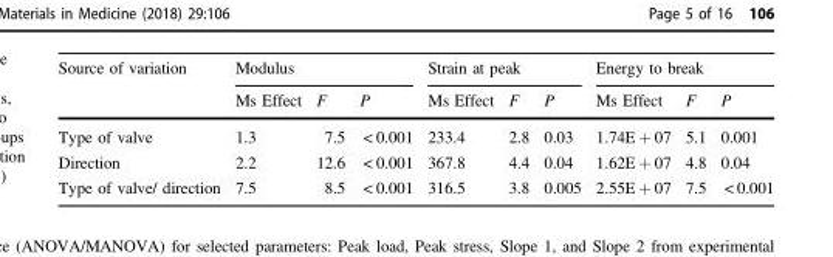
<table><thead><tr><td rowspan="2">Source of variation</td><td colspan="3">Modulus</td><td colspan="3">Strain at peak</td><td colspan="3">Energy to break</td></tr><tr><td>Ms Effect</td><td>F</td><td>P</td><td>Ms Effect</td><td>F</td><td>P</td><td>Ms Effect</td><td>F</td><td>P</td></tr></thead><tbody><tr><td>Type of valve</td><td>1.3</td><td>7.5</td><td>&lt; 0.001</td><td>233.4</td><td>2.8</td><td>0.03</td><td>1.74E + 07</td><td>5.1</td><td>0.001</td></tr><tr><td>Direction</td><td>2.2</td><td>12.6</td><td>&lt; 0.001</td><td>367.8</td><td>4.4</td><td>0.04</td><td>1.62E + 07</td><td>4.8</td><td>0.04</td></tr><tr><td>Type of valve/ direction</td><td>7.5</td><td>8.5</td><td>&lt; 0.001</td><td>316.5</td><td>3.8</td><td>0.005</td><td>2.55E + 07</td><td>7.5</td><td>&lt; 0.001</td></tr></tbody></table>